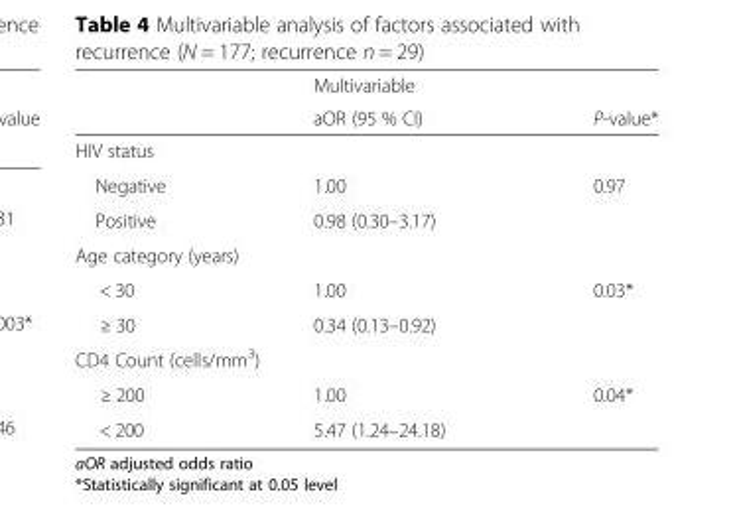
<table><thead><tr><td rowspan="2"></td><td rowspan="2">Multivariable aOR (95 % CI)</td><td rowspan="2">P-value*</td></tr><tr></tr></thead><tbody><tr><td colspan="3">HIV status</td></tr><tr><td>Negative</td><td>1.00</td><td rowspan="2">0.97</td></tr><tr><td>Positive</td><td>0.98 (0.30–3.17)</td></tr><tr><td colspan="3">Age category (years)</td></tr><tr><td>&lt; 30</td><td>1.00</td><td rowspan="2">0.03*</td></tr><tr><td>≥ 30</td><td>0.34 (0.13–0.92)</td></tr><tr><td colspan="3">CD4 Count (cells/mm<sup>3</sup>)</td></tr><tr><td>≥ 200</td><td>1.00</td><td rowspan="2">0.04*</td></tr><tr><td>&lt; 200</td><td>5.47 (1.24–24.18)</td></tr></tbody></table>